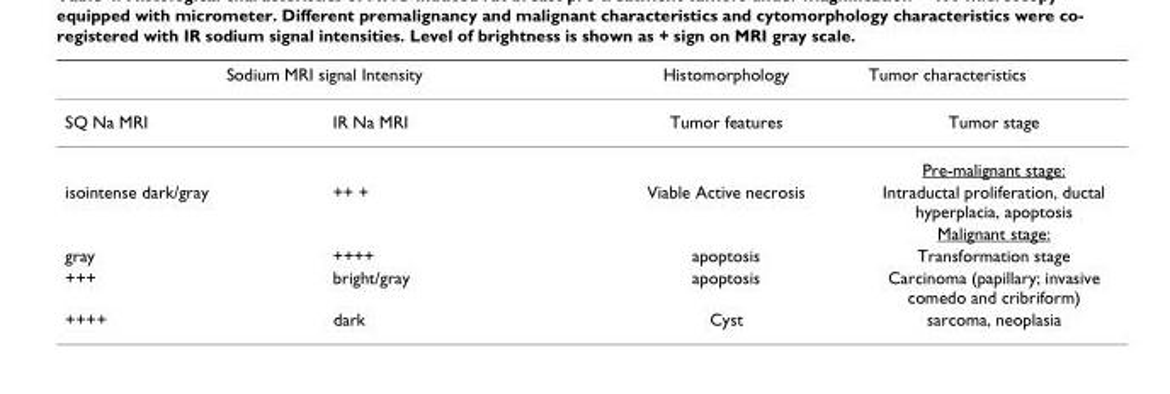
<table><thead><tr><td colspan="2">Sodium MRI signal Intensity</td><td rowspan="2">Histomorphology Tumor features</td><td rowspan="2">Tumor characteristics Tumor stage</td></tr><tr><td>SQ Na MRI</td><td>IR Na MRI</td></tr></thead><tbody><tr><td></td><td></td><td></td><td>Pre-malignant stage:</td></tr><tr><td rowspan="2">isointense dark/gray</td><td>++ +</td><td>Viable Active necrosis</td><td>Intraductal proliferation, ductal hyperplacia, apoptosis</td></tr><tr><td></td><td></td><td>Malignant stage:</td></tr><tr><td>gray</td><td>++++</td><td>apoptosis</td><td>Transformation stage</td></tr><tr><td>+++</td><td>bright/gray</td><td>apoptosis</td><td>Carcinoma (papillary; invasive comedo and cribriform)</td></tr><tr><td>++++</td><td>dark</td><td>Cyst</td><td>sarcoma, neoplasia</td></tr></tbody></table>